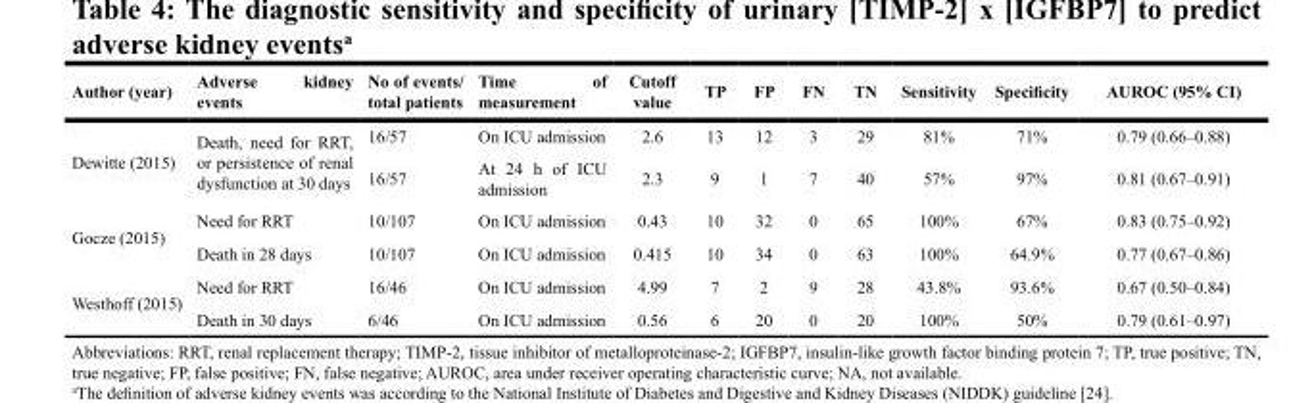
<table><thead><tr><td>Author (year)</td><td>Adverse kidney events</td><td>No of events/ total patients</td><td>Time of measurement</td><td>Cutoff value</td><td>TP</td><td>FP</td><td>FN</td><td>TN</td><td>Sensitivity</td><td>Specificity</td><td>AUROC (95% CI)</td></tr></thead><tbody><tr><td rowspan="2">Dewitte (2015)</td><td rowspan="2">Death, need for RRT, or persistence of renal dysfunction at 30 days</td><td>16/57</td><td>On ICU admission</td><td>2.6</td><td>13</td><td>12</td><td>3</td><td>29</td><td>81%</td><td>71%</td><td>0.79 (0.66–0.88)</td></tr><tr><td>16/57</td><td>At 24 h of ICU admission</td><td>2.3</td><td>9</td><td>1</td><td>7</td><td>40</td><td>57%</td><td>97%</td><td>0.81 (0.67–0.91)</td></tr><tr><td rowspan="2">Gocze (2015)</td><td>Need for RRT</td><td>10/107</td><td>On ICU admission</td><td>0.43</td><td>10</td><td>32</td><td>0</td><td>65</td><td>100%</td><td>67%</td><td>0.83 (0.75–0.92)</td></tr><tr><td>Death in 28 days</td><td>10/107</td><td>On ICU admission</td><td>0.415</td><td>10</td><td>34</td><td>0</td><td>63</td><td>100%</td><td>64.9%</td><td>0.77 (0.67–0.86)</td></tr><tr><td rowspan="2">Westhoff (2015)</td><td>Need for RRT</td><td>16/46</td><td>On ICU admission</td><td>4.99</td><td>7</td><td>2</td><td>9</td><td>28</td><td>43.8%</td><td>93.6%</td><td>0.67 (0.50–0.84)</td></tr><tr><td>Death in 30 days</td><td>6/46</td><td>On ICU admission</td><td>0.56</td><td>6</td><td>20</td><td>0</td><td>20</td><td>100%</td><td>50%</td><td>0.79 (0.61–0.97)</td></tr></tbody></table>